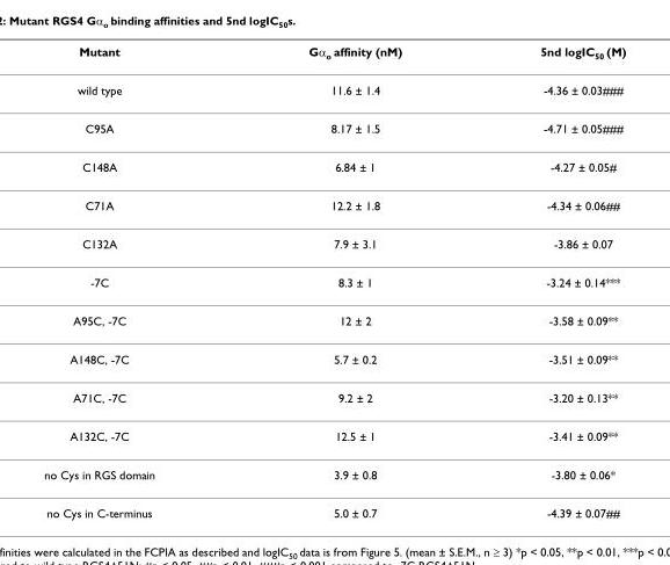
<table><thead><tr><td>Mutant</td><td>Gα<sub>o</sub> affinity (nM)</td><td>5nd logIC<sub>50</sub> (M)</td></tr></thead><tbody><tr><td>wild type</td><td>11.6 ± 1.4</td><td>-4.36 ± 0.03###</td></tr><tr><td>C95A</td><td>8.17 ± 1.5</td><td>-4.71 ± 0.05###</td></tr><tr><td>C148A</td><td>6.84 ± 1</td><td>-4.27 ± 0.05#</td></tr><tr><td>C71A</td><td>12.2 ± 1.8</td><td>-4.34 ± 0.06##</td></tr><tr><td>C132A</td><td>7.9 ± 3.1</td><td>-3.86 ± 0.07</td></tr><tr><td>-7C</td><td>8.3 ± 1</td><td>-3.24 ± 0.14***</td></tr><tr><td>A95C, -7C</td><td>12 ± 2</td><td>-3.58 ± 0.09**</td></tr><tr><td>A148C, -7C</td><td>5.7 ± 0.2</td><td>-3.51 ± 0.09**</td></tr><tr><td>A71C, -7C</td><td>9.2 ± 2</td><td>-3.20 ± 0.13**</td></tr><tr><td>A132C, -7C</td><td>12.5 ± 1</td><td>-3.41 ± 0.09**</td></tr><tr><td>no Cys in RGS domain</td><td>3.9 ± 0.8</td><td>-3.80 ± 0.06*</td></tr><tr><td>no Cys in C-terminus</td><td>5.0 ± 0.7</td><td>-4.39 ± 0.07##</td></tr></tbody></table>